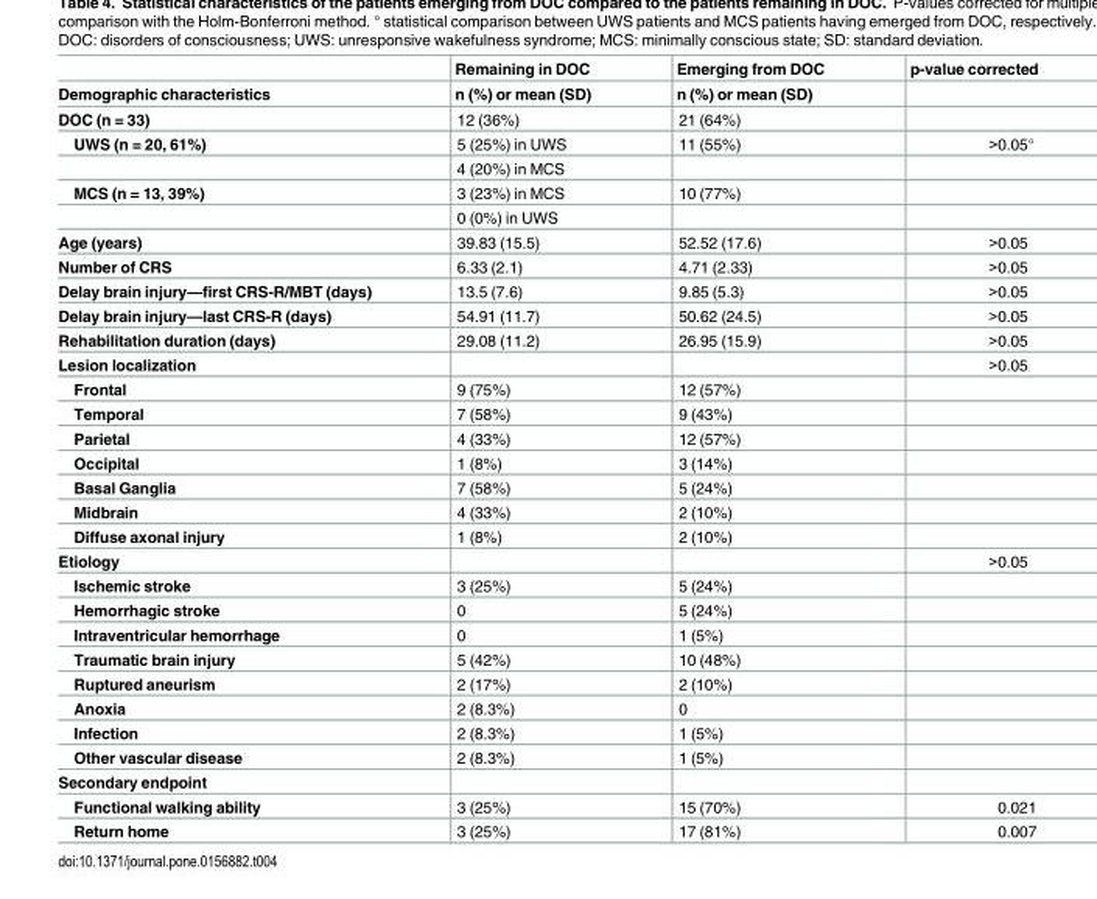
<table><thead><tr><td rowspan="2">Demographic characteristics</td><td rowspan="2">Remaining in DOC n (%) or mean (SD)</td><td rowspan="2">Emerging from DOC n (%) or mean (SD)</td><td rowspan="2">p-value corrected</td></tr><tr></tr></thead><tbody><tr><td>DOC (n = 33)</td><td>12 (36%)</td><td>21 (64%)</td><td></td></tr><tr><td rowspan="2">UWS (n = 20, 61%)</td><td>5 (25%) in UWS</td><td>11 (55%)</td><td>&gt;0.05°</td></tr><tr><td>4 (20%) in MCS</td><td></td><td></td></tr><tr><td rowspan="2">MCS (n = 13, 39%)</td><td>3 (23%) in MCS</td><td>10 (77%)</td><td></td></tr><tr><td>0 (0%) in UWS</td><td></td><td></td></tr><tr><td>Age (years)</td><td>39.83 (15.5)</td><td>52.52 (17.6)</td><td>&gt;0.05</td></tr><tr><td>Number of CRS</td><td>6.33 (2.1)</td><td>4.71 (2.33)</td><td>&gt;0.05</td></tr><tr><td>Delay brain injury—first CRS-R/MBT (days)</td><td>13.5 (7.6)</td><td>9.85 (5.3)</td><td>&gt;0.05</td></tr><tr><td>Delay brain injury—last CRS-R (days)</td><td>54.91 (11.7)</td><td>50.62 (24.5)</td><td>&gt;0.05</td></tr><tr><td>Rehabilitation duration (days)</td><td>29.08 (11.2)</td><td>26.95 (15.9)</td><td>&gt;0.05</td></tr><tr><td>Lesion localization</td><td></td><td></td><td>&gt;0.05</td></tr><tr><td>Frontal</td><td>9 (75%)</td><td>12 (57%)</td><td></td></tr><tr><td>Temporal</td><td>7 (58%)</td><td>9 (43%)</td><td></td></tr><tr><td>Parietal</td><td>4 (33%)</td><td>12 (57%)</td><td></td></tr><tr><td>Occipital</td><td>1 (8%)</td><td>3 (14%)</td><td></td></tr><tr><td>Basal Ganglia</td><td>7 (58%)</td><td>5 (24%)</td><td></td></tr><tr><td>Midbrain</td><td>4 (33%)</td><td>2 (10%)</td><td></td></tr><tr><td>Diffuse axonal injury</td><td>1 (8%)</td><td>2 (10%)</td><td></td></tr><tr><td>Etiology</td><td></td><td></td><td>&gt;0.05</td></tr><tr><td>Ischemic stroke</td><td>3 (25%)</td><td>5 (24%)</td><td></td></tr><tr><td>Hemorrhagic stroke</td><td>0</td><td>5 (24%)</td><td></td></tr><tr><td>Intraventricular hemorrhage</td><td>0</td><td>1 (5%)</td><td></td></tr><tr><td>Traumatic brain injury</td><td>5 (42%)</td><td>10 (48%)</td><td></td></tr><tr><td>Ruptured aneurism</td><td>2 (17%)</td><td>2 (10%)</td><td></td></tr><tr><td>Anoxia</td><td>2 (8.3%)</td><td>0</td><td></td></tr><tr><td>Infection</td><td>2 (8.3%)</td><td>1 (5%)</td><td></td></tr><tr><td>Other vascular disease</td><td>2 (8.3%)</td><td>1 (5%)</td><td></td></tr><tr><td colspan="4">Secondary endpoint</td></tr><tr><td>Functional walking ability</td><td>3 (25%)</td><td>15 (70%)</td><td>0.021</td></tr><tr><td>Return home</td><td>3 (25%)</td><td>17 (81%)</td><td>0.007</td></tr></tbody></table>